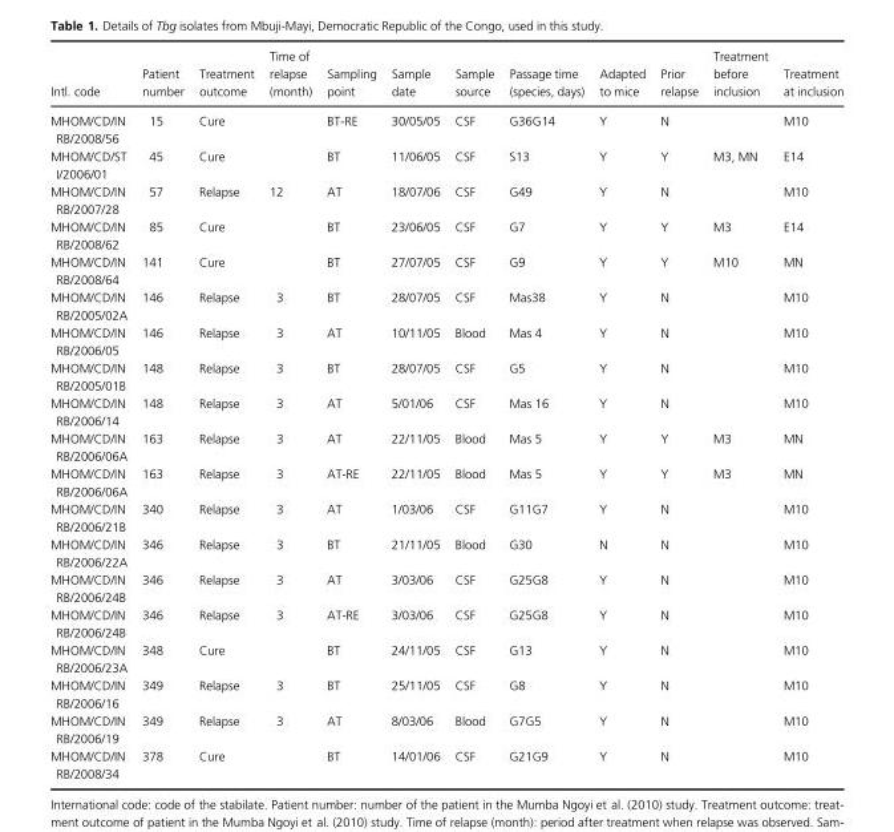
<table><thead><tr><td>Intl. code</td><td>Patient number</td><td>Treatment outcome</td><td>Time of relapse (month)</td><td>Sampling point</td><td>Sample date</td><td>Sample source</td><td>Passage time (species, days)</td><td>Adapted to mice</td><td>Prior relapse</td><td>Treatment before inclusion</td><td>Treatment at inclusion</td></tr></thead><tbody><tr><td>MHOM/CD/IN RB/2008/56</td><td>15</td><td>Cure</td><td></td><td>BT-RE</td><td>30/05/05</td><td>CSF</td><td>G36G14</td><td>Y</td><td>N</td><td></td><td>M10</td></tr><tr><td>MHOM/CD/ST I/2006/01</td><td>45</td><td>Cure</td><td></td><td>BT</td><td>11/06/05</td><td>CSF</td><td>S13</td><td>Y</td><td>Y</td><td>M3, MN</td><td>E14</td></tr><tr><td>MHOM/CD/IN RB/2007/28</td><td>57</td><td>Relapse</td><td>12</td><td>AT</td><td>18/07/06</td><td>CSF</td><td>G49</td><td>Y</td><td>N</td><td></td><td>M10</td></tr><tr><td>MHOM/CD/IN RB/2008/62</td><td>85</td><td>Cure</td><td></td><td>BT</td><td>23/06/05</td><td>CSF</td><td>G7</td><td>Y</td><td>Y</td><td>M3</td><td>E14</td></tr><tr><td>MHOM/CD/IN RB/2008/64</td><td>141</td><td>Cure</td><td></td><td>BT</td><td>27/07/05</td><td>CSF</td><td>G9</td><td>Y</td><td>Y</td><td>M10</td><td>MN</td></tr><tr><td>MHOM/CD/IN RB/2005/02A</td><td>146</td><td>Relapse</td><td>3</td><td>BT</td><td>28/07/05</td><td>CSF</td><td>Mas38</td><td>Y</td><td>N</td><td></td><td>M10</td></tr><tr><td>MHOM/CD/IN RB/2006/05</td><td>146</td><td>Relapse</td><td>3</td><td>AT</td><td>10/11/05</td><td>Blood</td><td>Mas 4</td><td>Y</td><td>N</td><td></td><td>M10</td></tr><tr><td>MHOM/CD/IN RB/2005/01B</td><td>148</td><td>Relapse</td><td>3</td><td>BT</td><td>28/07/05</td><td>CSF</td><td>G5</td><td>Y</td><td>N</td><td></td><td>M10</td></tr><tr><td>MHOM/CD/IN RB/2006/14</td><td>148</td><td>Relapse</td><td>3</td><td>AT</td><td>5/01/06</td><td>CSF</td><td>Mas 16</td><td>Y</td><td>N</td><td></td><td>M10</td></tr><tr><td>MHOM/CD/IN RB/2006/06A</td><td>163</td><td>Relapse</td><td>3</td><td>AT</td><td>22/11/05</td><td>Blood</td><td>Mas 5</td><td>Y</td><td>Y</td><td>M3</td><td>MN</td></tr><tr><td>MHOM/CD/IN RB/2006/06A</td><td>163</td><td>Relapse</td><td>3</td><td>AT-RE</td><td>22/11/05</td><td>Blood</td><td>Mas 5</td><td>Y</td><td>Y</td><td>M3</td><td>MN</td></tr><tr><td>MHOM/CD/IN RB/2006/21B</td><td>340</td><td>Relapse</td><td>3</td><td>AT</td><td>1/03/06</td><td>CSF</td><td>G11G7</td><td>Y</td><td>N</td><td></td><td>M10</td></tr><tr><td>MHOM/CD/IN RB/2006/22A</td><td>346</td><td>Relapse</td><td>3</td><td>BT</td><td>21/11/05</td><td>Blood</td><td>G30</td><td>N</td><td>N</td><td></td><td>M10</td></tr><tr><td>MHOM/CD/IN RB/2006/24B</td><td>346</td><td>Relapse</td><td>3</td><td>AT</td><td>3/03/06</td><td>CSF</td><td>G25G8</td><td>Y</td><td>N</td><td></td><td>M10</td></tr><tr><td>MHOM/CD/IN RB/2006/24B</td><td>346</td><td>Relapse</td><td>3</td><td>AT-RE</td><td>3/03/06</td><td>CSF</td><td>G25G8</td><td>Y</td><td>N</td><td></td><td>M10</td></tr><tr><td>MHOM/CD/IN RB/2006/23A</td><td>348</td><td>Cure</td><td></td><td>BT</td><td>24/11/05</td><td>CSF</td><td>G13</td><td>Y</td><td>N</td><td></td><td>M10</td></tr><tr><td>MHOM/CD/IN RB/2006/16</td><td>349</td><td>Relapse</td><td>3</td><td>BT</td><td>25/11/05</td><td>CSF</td><td>G8</td><td>Y</td><td>N</td><td></td><td>M10</td></tr><tr><td>MHOM/CD/IN RB/2006/19</td><td>349</td><td>Relapse</td><td>3</td><td>AT</td><td>8/03/06</td><td>Blood</td><td>G7G5</td><td>Y</td><td>N</td><td></td><td>M10</td></tr><tr><td>MHOM/CD/IN RB/2008/34</td><td>378</td><td>Cure</td><td></td><td>BT</td><td>14/01/06</td><td>CSF</td><td>G21G9</td><td>Y</td><td>N</td><td></td><td>M10</td></tr></tbody></table>